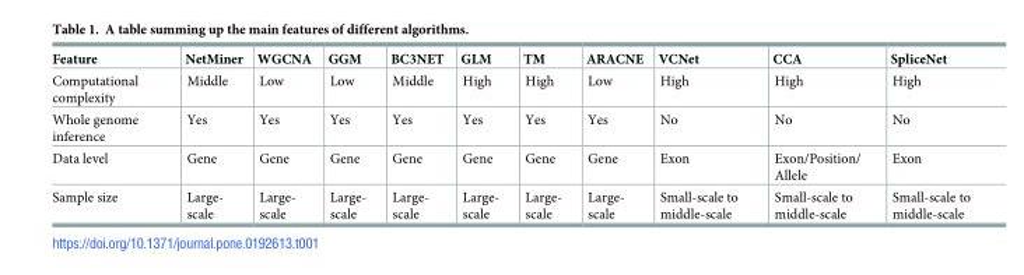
<table><thead><tr><td>Feature</td><td>NetMiner</td><td>WGCNA</td><td>GGM</td><td>BC3NET</td><td>GLM</td><td>TM</td><td>ARACNE</td><td>VCNet</td><td>CCA</td><td>SpliceNet</td></tr></thead><tbody><tr><td>Computational complexity</td><td>Middle</td><td>Low</td><td>Low</td><td>Middle</td><td>High</td><td>High</td><td>Low</td><td>High</td><td>High</td><td>High</td></tr><tr><td>Whole genome inference</td><td>Yes</td><td>Yes</td><td>Yes</td><td>Yes</td><td>Yes</td><td>Yes</td><td>Yes</td><td>No</td><td>No</td><td>No</td></tr><tr><td>Data level</td><td>Gene</td><td>Gene</td><td>Gene</td><td>Gene</td><td>Gene</td><td>Gene</td><td>Gene</td><td>Exon</td><td>Exon/Position/ Allele</td><td>Exon</td></tr><tr><td>Sample size</td><td>Large- scale</td><td>Large- scale</td><td>Large- scale</td><td>Large- scale</td><td>Large- scale</td><td>Large- scale</td><td>Large- scale</td><td>Small-scale to middle-scale</td><td>Small-scale to middle-scale</td><td>Small-scale to middle-scale</td></tr></tbody></table>